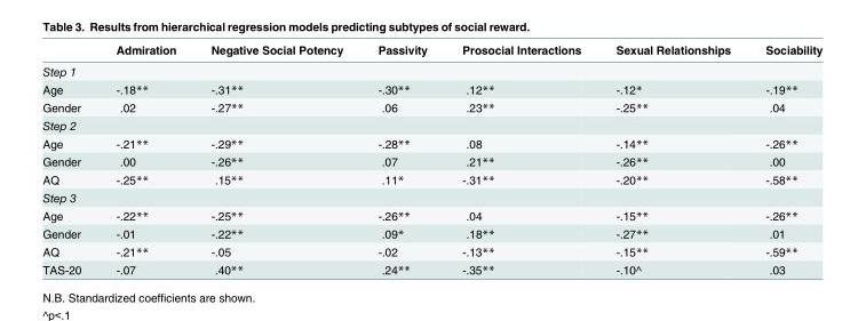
<table><thead><tr><td></td><td>Admiration</td><td>Negative Social Potency</td><td>Passivity</td><td>Prosocial Interactions</td><td>Sexual Relationships</td><td>Sociability</td></tr></thead><tbody><tr><td colspan="7">Step 1</td></tr><tr><td>Age</td><td>-.18**</td><td>-.31**</td><td>-.30**</td><td>.12**</td><td>-.12*</td><td>-.19**</td></tr><tr><td>Gender</td><td>.02</td><td>-.27**</td><td>.06</td><td>.23**</td><td>-.25**</td><td>.04</td></tr><tr><td colspan="7">Step 2</td></tr><tr><td>Age</td><td>-.21**</td><td>-.29**</td><td>-.28**</td><td>.08</td><td>-.14**</td><td>-.26**</td></tr><tr><td>Gender</td><td>.00</td><td>-.26**</td><td>.07</td><td>.21**</td><td>-.26**</td><td>.00</td></tr><tr><td>AQ</td><td>-.25**</td><td>.15**</td><td>.11*</td><td>-.31**</td><td>-.20**</td><td>-.58**</td></tr><tr><td colspan="7">Step 3</td></tr><tr><td>Age</td><td>-.22**</td><td>-.25**</td><td>-.26**</td><td>.04</td><td>-.15**</td><td>-.26**</td></tr><tr><td>Gender</td><td>-.01</td><td>-.22**</td><td>.09*</td><td>.18**</td><td>-.27**</td><td>.01</td></tr><tr><td>AQ</td><td>-.21**</td><td>-.05</td><td>-.02</td><td>-.13**</td><td>-.15**</td><td>-.59**</td></tr><tr><td>TAS-20</td><td>-.07</td><td>.40**</td><td>.24**</td><td>-.35**</td><td>-.10^</td><td>.03</td></tr></tbody></table>